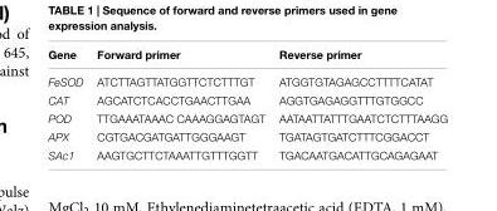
<table><thead><tr><td>Gene</td><td>Forward primer</td><td>Reverse primer</td></tr></thead><tbody><tr><td>FeSOD</td><td>ATCTTAGTTATGGTTCTCTTTGT</td><td>ATGGTGTAGAGCCTTTTCATAT</td></tr><tr><td>CAT</td><td>AGCATCTCACCTGAACTTGAA</td><td>AGGTGAGAGGTTTGTGGCC</td></tr><tr><td>POD</td><td>TTGAAATAAAC CAAAGGAGTAGT</td><td>AATAATTATTTGAATCTCTTTAAGG</td></tr><tr><td>APX</td><td>CGTGACGATGATTGGGAAGT</td><td>TGATAGTGATCTTTCGGACCT</td></tr><tr><td>SAc1</td><td>AAGTGCTTCTAAATTGTTTGGTT</td><td>TGACAATGACATTGCAGAGAAT</td></tr></tbody></table>